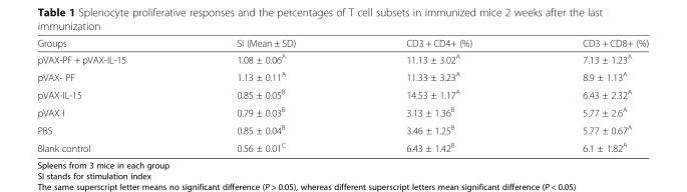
<table><thead><tr><td>Groups</td><td>SI (Mean ± SD)</td><td>CD3 + CD4+ (%)</td><td>CD3 + CD8+ (%)</td></tr></thead><tbody><tr><td>pVAX-PF + pVAX-IL-15</td><td>1.08 ± 0.06<sup>A</sup></td><td>11.13 ± 3.02<sup>A</sup></td><td>7.13 ± 1.23<sup>A</sup></td></tr><tr><td>pVAX- PF</td><td>1.13 ± 0.11<sup>A</sup></td><td>11.33 ± 3.23<sup>A</sup></td><td>8.9 ± 1.13<sup>A</sup></td></tr><tr><td>pVAX-IL-15</td><td>0.85 ± 0.05<sup>B</sup></td><td>14.53 ± 1.17<sup>A</sup></td><td>6.43 ± 2.32<sup>A</sup></td></tr><tr><td>pVAX I</td><td>0.79 ± 0.03<sup>B</sup></td><td>3.13 ± 1.36<sup>B</sup></td><td>5.77 ± 2.6<sup>A</sup></td></tr><tr><td>PBS</td><td>0.85 ± 0.04<sup>B</sup></td><td>3.46 ± 1.25<sup>B</sup></td><td>5.77 ± 0.67<sup>A</sup></td></tr><tr><td>Blank control</td><td>0.56 ± 0.01<sup>C</sup></td><td>6.43 ± 1.42<sup>B</sup></td><td>6.1 ± 1.82<sup>A</sup></td></tr></tbody></table>